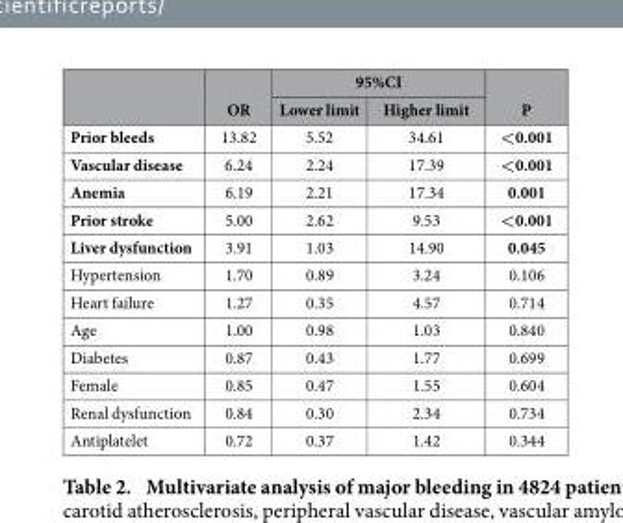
<table><thead><tr><td rowspan="2"></td><td rowspan="2">OR</td><td colspan="2">95%CI</td><td rowspan="2">P</td></tr><tr><td>Lower limit</td><td>Higher limit</td></tr></thead><tbody><tr><td>Prior bleeds</td><td>13.82</td><td>5.52</td><td>34.61</td><td>&lt;0.001</td></tr><tr><td>Vascular disease</td><td>6.24</td><td>2.24</td><td>17.39</td><td>&lt;0.001</td></tr><tr><td>Anemia</td><td>6.19</td><td>2.21</td><td>17.34</td><td>0.001</td></tr><tr><td>Prior stroke</td><td>5.00</td><td>2.62</td><td>9.53</td><td>&lt;0.001</td></tr><tr><td>Liver dysfunction</td><td>3.91</td><td>1.03</td><td>14.90</td><td>0.045</td></tr><tr><td>Hypertension</td><td>1.70</td><td>0.89</td><td>3.24</td><td>0.106</td></tr><tr><td>Heart failure</td><td>1.27</td><td>0.35</td><td>4.57</td><td>0.714</td></tr><tr><td>Age</td><td>1.00</td><td>0.98</td><td>1.03</td><td>0.840</td></tr><tr><td>Diabetes</td><td>0.87</td><td>0.43</td><td>1.77</td><td>0.699</td></tr><tr><td>Female</td><td>0.85</td><td>0.47</td><td>1.55</td><td>0.604</td></tr><tr><td>Renal dysfunction</td><td>0.84</td><td>0.30</td><td>2.34</td><td>0.734</td></tr><tr><td>Antiplatelet</td><td>0.72</td><td>0.37</td><td>1.42</td><td>0.344</td></tr></tbody></table>